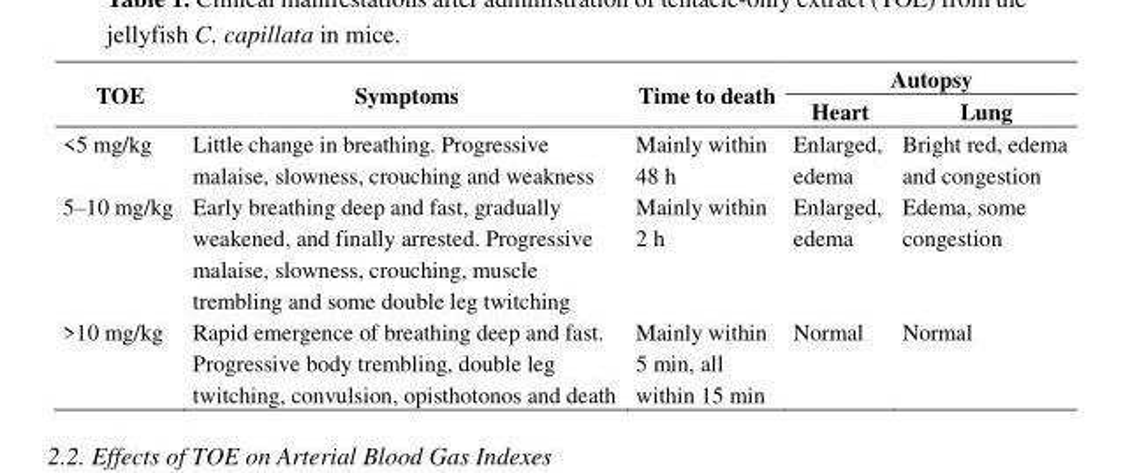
<table><thead><tr><td rowspan="2">TOE</td><td rowspan="2">Symptoms</td><td rowspan="2">Time to death</td><td colspan="2">Autopsy</td></tr><tr><td>Heart</td><td>Lung</td></tr></thead><tbody><tr><td>&lt;5 mg/kg</td><td>Little change in breathing. Progressive malaise, slowness, crouching and weakness</td><td>Mainly within 48 h</td><td>Enlarged, edema</td><td>Bright red, edema and congestion</td></tr><tr><td>5–10 mg/kg</td><td>Early breathing deep and fast, gradually weakened, and finally arrested. Progressive malaise, slowness, crouching, muscle trembling and some double leg twitching</td><td>Mainly within 2 h</td><td>Enlarged, edema</td><td>Edema, some congestion</td></tr><tr><td>&gt;10 mg/kg</td><td>Rapid emergence of breathing deep and fast. Progressive body trembling, double leg twitching, convulsion, opisthotonos and death</td><td>Mainly within 5 min, all within 15 min</td><td>Normal</td><td>Normal</td></tr></tbody></table>